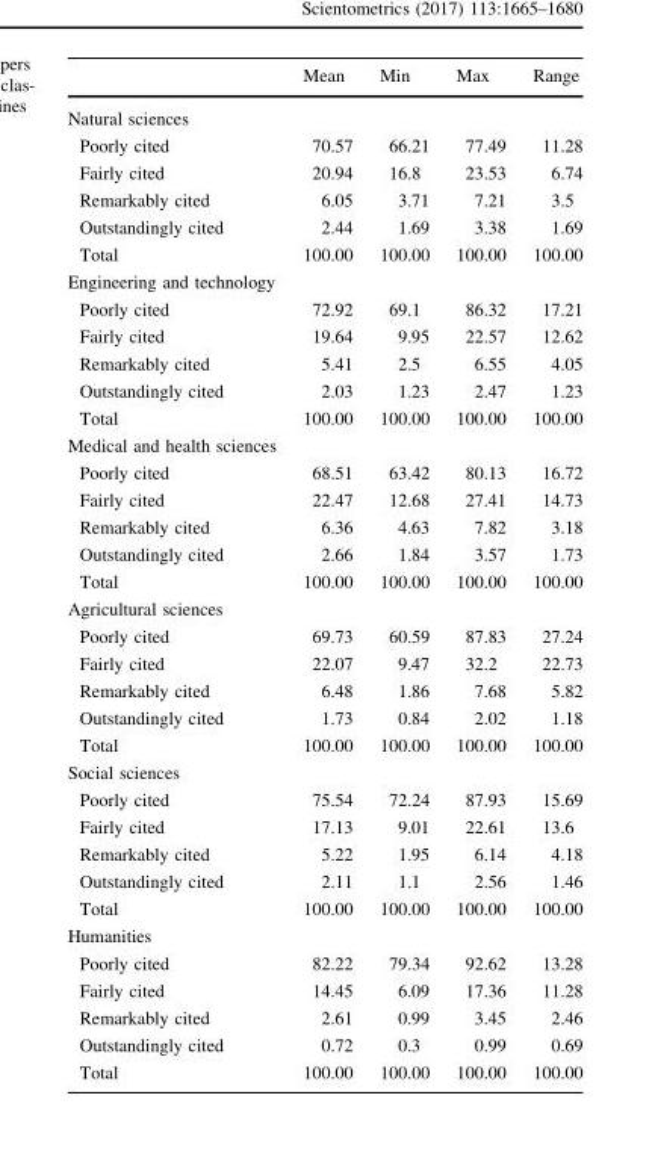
<table><thead><tr><td></td><td>Mean</td><td>Min</td><td>Max</td><td>Range</td></tr></thead><tbody><tr><td colspan="5">Natural sciences</td></tr><tr><td>Poorly cited</td><td>70.57</td><td>66.21</td><td>77.49</td><td>11.28</td></tr><tr><td>Fairly cited</td><td>20.94</td><td>16.8</td><td>23.53</td><td>6.74</td></tr><tr><td>Remarkably cited</td><td>6.05</td><td>3.71</td><td>7.21</td><td>3.5</td></tr><tr><td>Outstandingly cited</td><td>2.44</td><td>1.69</td><td>3.38</td><td>1.69</td></tr><tr><td>Total</td><td>100.00</td><td>100.00</td><td>100.00</td><td>100.00</td></tr><tr><td colspan="5">Engineering and technology</td></tr><tr><td>Poorly cited</td><td>72.92</td><td>69.1</td><td>86.32</td><td>17.21</td></tr><tr><td>Fairly cited</td><td>19.64</td><td>9.95</td><td>22.57</td><td>12.62</td></tr><tr><td>Remarkably cited</td><td>5.41</td><td>2.5</td><td>6.55</td><td>4.05</td></tr><tr><td>Outstandingly cited</td><td>2.03</td><td>1.23</td><td>2.47</td><td>1.23</td></tr><tr><td>Total</td><td>100.00</td><td>100.00</td><td>100.00</td><td>100.00</td></tr><tr><td colspan="5">Medical and health sciences</td></tr><tr><td>Poorly cited</td><td>68.51</td><td>63.42</td><td>80.13</td><td>16.72</td></tr><tr><td>Fairly cited</td><td>22.47</td><td>12.68</td><td>27.41</td><td>14.73</td></tr><tr><td>Remarkably cited</td><td>6.36</td><td>4.63</td><td>7.82</td><td>3.18</td></tr><tr><td>Outstandingly cited</td><td>2.66</td><td>1.84</td><td>3.57</td><td>1.73</td></tr><tr><td>Total</td><td>100.00</td><td>100.00</td><td>100.00</td><td>100.00</td></tr><tr><td colspan="5">Agricultural sciences</td></tr><tr><td>Poorly cited</td><td>69.73</td><td>60.59</td><td>87.83</td><td>27.24</td></tr><tr><td>Fairly cited</td><td>22.07</td><td>9.47</td><td>32.2</td><td>22.73</td></tr><tr><td>Remarkably cited</td><td>6.48</td><td>1.86</td><td>7.68</td><td>5.82</td></tr><tr><td>Outstandingly cited</td><td>1.73</td><td>0.84</td><td>2.02</td><td>1.18</td></tr><tr><td>Total</td><td>100.00</td><td>100.00</td><td>100.00</td><td>100.00</td></tr><tr><td colspan="5">Social sciences</td></tr><tr><td>Poorly cited</td><td>75.54</td><td>72.24</td><td>87.93</td><td>15.69</td></tr><tr><td>Fairly cited</td><td>17.13</td><td>9.01</td><td>22.61</td><td>13.6</td></tr><tr><td>Remarkably cited</td><td>5.22</td><td>1.95</td><td>6.14</td><td>4.18</td></tr><tr><td>Outstandingly cited</td><td>2.11</td><td>1.1</td><td>2.56</td><td>1.46</td></tr><tr><td>Total</td><td>100.00</td><td>100.00</td><td>100.00</td><td>100.00</td></tr><tr><td colspan="5">Humanities</td></tr><tr><td>Poorly cited</td><td>82.22</td><td>79.34</td><td>92.62</td><td>13.28</td></tr><tr><td>Fairly cited</td><td>14.45</td><td>6.09</td><td>17.36</td><td>11.28</td></tr><tr><td>Remarkably cited</td><td>2.61</td><td>0.99</td><td>3.45</td><td>2.46</td></tr><tr><td>Outstandingly cited</td><td>0.72</td><td>0.3</td><td>0.99</td><td>0.69</td></tr><tr><td>Total</td><td>100.00</td><td>100.00</td><td>100.00</td><td>100.00</td></tr></tbody></table>